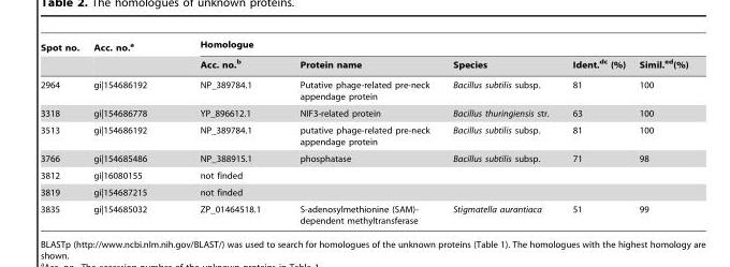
<table><thead><tr><td rowspan="2">Spot no.</td><td rowspan="2">Acc. no.<sup>a</sup></td><td colspan="5">Homologue</td></tr><tr><td>Acc. no.<sup>b</sup></td><td>Protein name</td><td>Species</td><td>Ident.<sup>dc</sup> (%)</td><td>Simil.<sup>ed</sup>(%)</td></tr></thead><tbody><tr><td>2964</td><td>gi|154686192</td><td>NP_389784.1</td><td>Putative phage-related pre-neck appendage protein</td><td>Bacillus subtilis subsp.</td><td>81</td><td>100</td></tr><tr><td>3318</td><td>gi|154686778</td><td>YP_896612.1</td><td>NIF3-related protein</td><td>Bacillus thuringiensis str.</td><td>63</td><td>100</td></tr><tr><td>3513</td><td>gi|154686192</td><td>NP_389784.1</td><td>putative phage-related pre-neck appendage protein</td><td>Bacillus subtilis subsp.</td><td>81</td><td>100</td></tr><tr><td>3766</td><td>gi|154685486</td><td>NP_388915.1</td><td>phosphatase</td><td>Bacillus subtilis subsp.</td><td>71</td><td>98</td></tr><tr><td>3812</td><td>gi|16080155</td><td colspan="5">not finded</td></tr><tr><td>3819</td><td>gi|154687215</td><td colspan="5">not finded</td></tr><tr><td>3835</td><td>gi|154685032</td><td>ZP_01464518.1</td><td>S-adenosylmethionine (SAM)- dependent methyltransferase</td><td>Stigmatella aurantiaca</td><td>51</td><td>99</td></tr></tbody></table>